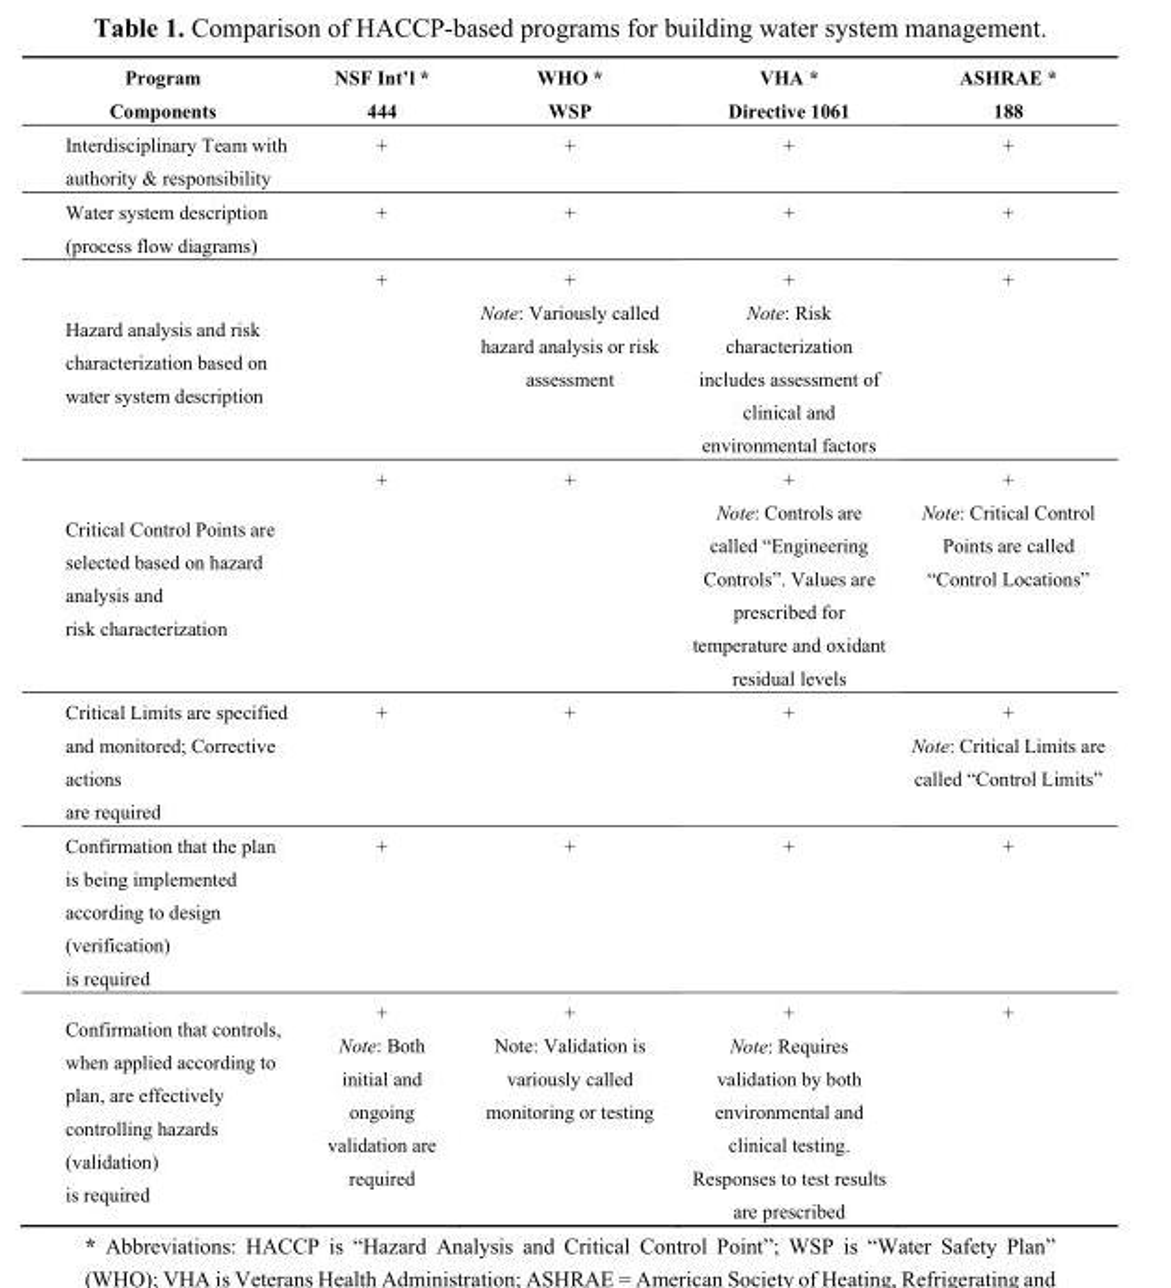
<table><thead><tr><td>Program Components</td><td>NSF Int’l * 444</td><td>WHO * WSP</td><td>VHA * Directive 1061</td><td>ASHRAE * 188</td></tr></thead><tbody><tr><td>Interdisciplinary Team with authority &amp; responsibility</td><td>+</td><td>+</td><td>+</td><td>+</td></tr><tr><td>Water system description (process flow diagrams)</td><td>+</td><td>+</td><td>+</td><td>+</td></tr><tr><td>Hazard analysis and risk characterization based on water system description</td><td>+</td><td>+ Note: Variously called hazard analysis or risk assessment</td><td>+ Note: Risk characterization includes assessment of clinical and environmental factors</td><td>+</td></tr><tr><td>Critical Control Points are selected based on hazard analysis and risk characterization</td><td>+</td><td>+</td><td>+ Note: Controls are called “Engineering Controls”. Values are prescribed for temperature and oxidant residual levels</td><td>+ Note: Critical Control Points are called “Control Locations”</td></tr><tr><td>Critical Limits are specified and monitored; Corrective actions are required</td><td>+</td><td>+</td><td>+</td><td>+ Note: Critical Limits are called “Control Limits”</td></tr><tr><td>Confirmation that the plan is being implemented according to design (verification) is required</td><td>+</td><td>+</td><td>+</td><td>+</td></tr><tr><td>Confirmation that controls, when applied according to plan, are effectively controlling hazards (validation) is required</td><td>+ Note: Both initial and ongoing validation are required</td><td>+ Note: Validation is variously called monitoring or testing</td><td>+ Note: Requires validation by both environmental and clinical testing. Responses to test results are prescribed</td><td>+</td></tr></tbody></table>